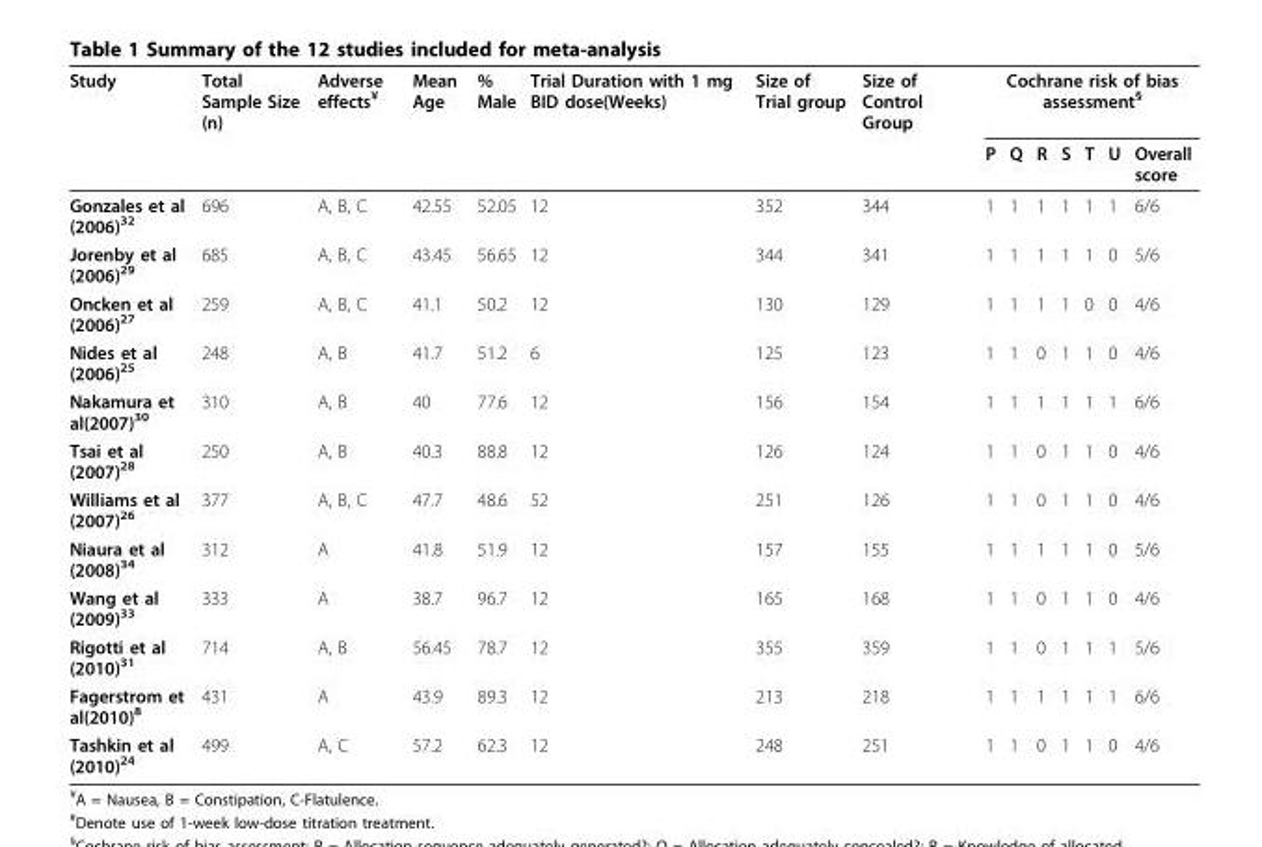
<table><thead><tr><td rowspan="2">Study</td><td rowspan="2">Total Sample Size (n)</td><td rowspan="2">Adverse effects<sup>¥</sup></td><td rowspan="2">Mean Age</td><td rowspan="2">% Male</td><td rowspan="2">Trial Duration with 1 mg BID dose(Weeks)</td><td rowspan="2">Size of Trial group</td><td rowspan="2">Size of Control Group</td><td colspan="7">Cochrane risk of bias assessment<sup>§</sup></td></tr><tr><td>P</td><td>Q</td><td>R</td><td>S</td><td>T</td><td>U</td><td>Overall score</td></tr></thead><tbody><tr><td>Gonzales et al (2006)<sup>32</sup></td><td>696</td><td>A, B, C</td><td>42.55</td><td>52.05</td><td>12</td><td>352</td><td>344</td><td>1</td><td>1</td><td>1</td><td>1</td><td>1</td><td>1</td><td>6/6</td></tr><tr><td>Jorenby et al (2006)<sup>29</sup></td><td>685</td><td>A, B, C</td><td>43.45</td><td>56.65</td><td>12</td><td>344</td><td>341</td><td>1</td><td>1</td><td>1</td><td>1</td><td>1</td><td>0</td><td>5/6</td></tr><tr><td>Oncken et al (2006)<sup>27</sup></td><td>259</td><td>A, B, C</td><td>41.1</td><td>50.2</td><td>12</td><td>130</td><td>129</td><td>1</td><td>1</td><td>1</td><td>1</td><td>0</td><td>0</td><td>4/6</td></tr><tr><td>Nides et al (2006)<sup>25</sup></td><td>248</td><td>A, B</td><td>41.7</td><td>51.2</td><td>6</td><td>125</td><td>123</td><td>1</td><td>1</td><td>0</td><td>1</td><td>1</td><td>0</td><td>4/6</td></tr><tr><td>Nakamura et al(2007)<sup>30</sup></td><td>310</td><td>A, B</td><td>40</td><td>77.6</td><td>12</td><td>156</td><td>154</td><td>1</td><td>1</td><td>1</td><td>1</td><td>1</td><td>1</td><td>6/6</td></tr><tr><td>Tsai et al (2007)<sup>28</sup></td><td>250</td><td>A, B</td><td>40.3</td><td>88.8</td><td>12</td><td>126</td><td>124</td><td>1</td><td>1</td><td>0</td><td>1</td><td>1</td><td>0</td><td>4/6</td></tr><tr><td>Williams et al (2007)<sup>26</sup></td><td>377</td><td>A, B, C</td><td>47.7</td><td>48.6</td><td>52</td><td>251</td><td>126</td><td>1</td><td>1</td><td>0</td><td>1</td><td>1</td><td>0</td><td>4/6</td></tr><tr><td>Niaura et al (2008)<sup>34</sup></td><td>312</td><td>A</td><td>41.8</td><td>51.9</td><td>12</td><td>157</td><td>155</td><td>1</td><td>1</td><td>1</td><td>1</td><td>1</td><td>0</td><td>5/6</td></tr><tr><td>Wang et al (2009)<sup>33</sup></td><td>333</td><td>A</td><td>38.7</td><td>96.7</td><td>12</td><td>165</td><td>168</td><td>1</td><td>1</td><td>0</td><td>1</td><td>1</td><td>0</td><td>4/6</td></tr><tr><td>Rigotti et al (2010)<sup>31</sup></td><td>714</td><td>A, B</td><td>56.45</td><td>78.7</td><td>12</td><td>355</td><td>359</td><td>1</td><td>1</td><td>0</td><td>1</td><td>1</td><td>1</td><td>5/6</td></tr><tr><td>Fagerstrom et al(2010)<sup>8</sup></td><td>431</td><td>A</td><td>43.9</td><td>89.3</td><td>12</td><td>213</td><td>218</td><td>1</td><td>1</td><td>1</td><td>1</td><td>1</td><td>1</td><td>6/6</td></tr><tr><td>Tashkin et al (2010)<sup>24</sup></td><td>499</td><td>A, C</td><td>57.2</td><td>62.3</td><td>12</td><td>248</td><td>251</td><td>1</td><td>1</td><td>0</td><td>1</td><td>1</td><td>0</td><td>4/6</td></tr></tbody></table>